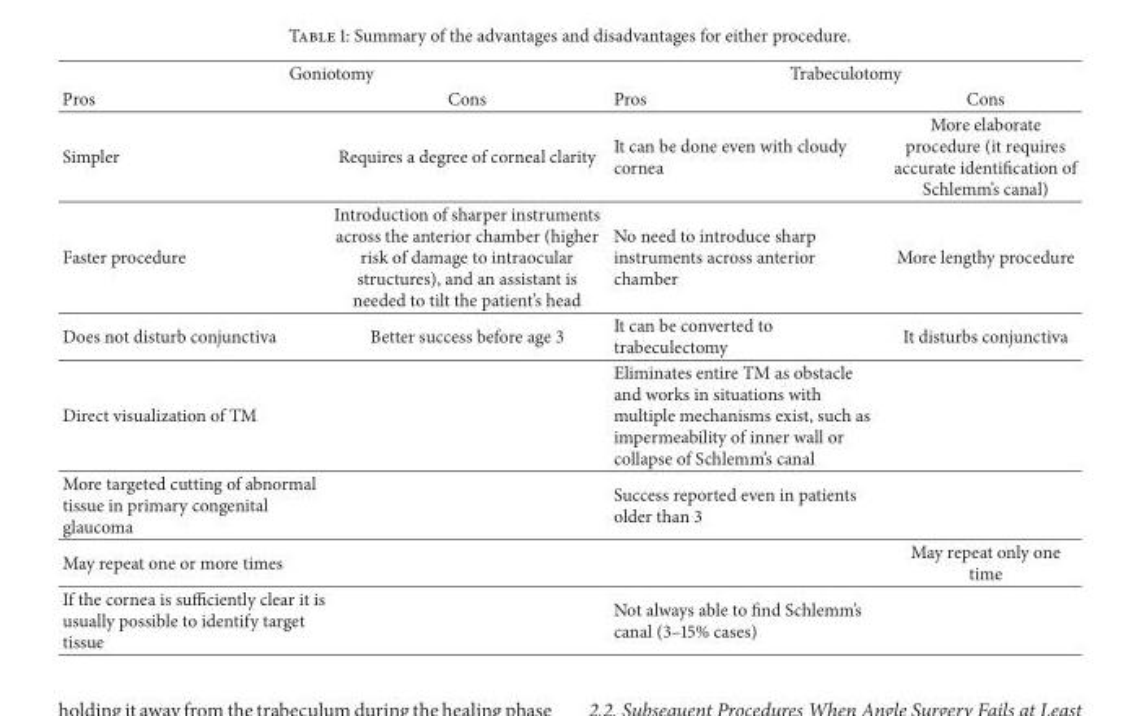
<table><thead><tr><td colspan="2">Goniotomy</td><td colspan="2">Trabeculotomy</td></tr><tr><td>Pros</td><td>Cons</td><td>Pros</td><td>Cons</td></tr></thead><tbody><tr><td>Simpler</td><td>Requires a degree of corneal clarity</td><td>It can be done even with cloudy cornea</td><td>More elaborate procedure (it requires accurate identification of Schlemm’s canal)</td></tr><tr><td>Faster procedure</td><td>Introduction of sharper instruments across the anterior chamber (higher risk of damage to intraocular structures), and an assistant is needed to tilt the patient’s head</td><td>No need to introduce sharp instruments across anterior chamber</td><td>More lengthy procedure</td></tr><tr><td>Does not disturb conjunctiva</td><td>Better success before age 3</td><td>It can be converted to trabeculectomy</td><td>It disturbs conjunctiva</td></tr><tr><td>Direct visualization of TM</td><td></td><td>Eliminates entire TM as obstacle and works in situations with multiple mechanisms exist, such as impermeability of inner wall or collapse of Schlemm’s canal</td><td></td></tr><tr><td>More targeted cutting of abnormal tissue in primary congenital glaucoma</td><td></td><td>Success reported even in patients older than 3</td><td></td></tr><tr><td>May repeat one or more times</td><td></td><td></td><td>May repeat only one time</td></tr><tr><td>If the cornea is sufficiently clear it is usually possible to identify target tissue</td><td></td><td>Not always able to find Schlemm’s canal (3–15% cases)</td><td></td></tr></tbody></table>